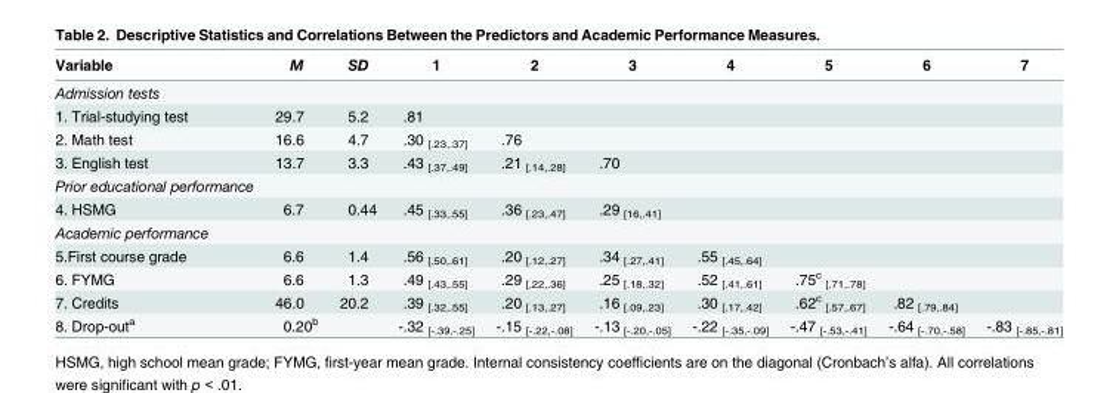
<table><thead><tr><td>Variable</td><td>M</td><td>SD</td><td>1</td><td>2</td><td>3</td><td>4</td><td>5</td><td>6</td><td>7</td></tr></thead><tbody><tr><td colspan="10">Admission tests</td></tr><tr><td>1. Trial-studying test</td><td>29.7</td><td>5.2</td><td>.81</td><td></td><td></td><td></td><td></td><td></td><td></td></tr><tr><td>2. Math test</td><td>16.6</td><td>4.7</td><td>.30 <sub>[.23,.37]</sub></td><td>.76</td><td></td><td></td><td></td><td></td><td></td></tr><tr><td>3. English test</td><td>13.7</td><td>3.3</td><td>.43 <sub>[.37,.49]</sub></td><td>.21 <sub>[.14,.28]</sub></td><td>.70</td><td></td><td></td><td></td><td></td></tr><tr><td colspan="10">Prior educational performance</td></tr><tr><td>4. HSMG</td><td>6.7</td><td>0.44</td><td>.45 <sub>[.33,.55]</sub></td><td>.36 <sub>[.23,.47]</sub></td><td>.29 <sub>[16,.41]</sub></td><td></td><td></td><td></td><td></td></tr><tr><td colspan="10">Academic performance</td></tr><tr><td>5.First course grade</td><td>6.6</td><td>1.4</td><td>.56 <sub>[.50,.61]</sub></td><td>.20 <sub>[.12,.27]</sub></td><td>.34 <sub>[.27,.41]</sub></td><td>.55 <sub>[.45,.64]</sub></td><td></td><td></td><td></td></tr><tr><td>6. FYMG</td><td>6.6</td><td>1.3</td><td>.49 <sub>[.43,.55]</sub></td><td>.29 <sub>[.22,.36]</sub></td><td>.25 <sub>[.18,.32]</sub></td><td>.52 <sub>[.41,.61]</sub></td><td>.75<sup>c</sup> <sub>[.71,.78]</sub></td><td></td><td></td></tr><tr><td>7. Credits</td><td>46.0</td><td>20.2</td><td>.39 <sub>[.32,.55]</sub></td><td>.20 <sub>[.13,.27]</sub></td><td>.16 <sub>[.09,.23]</sub></td><td>.30 <sub>[.17,.42]</sub></td><td>.62<sup>c</sup> <sub>[.57,.67]</sub></td><td>.82 <sub>[.79,.84]</sub></td><td></td></tr><tr><td>8. Drop-out<sup>a</sup></td><td>0.20<sup>b</sup></td><td></td><td>-.32 <sub>[-.39,-.25]</sub></td><td>-.15 <sub>[-.22,-.08]</sub></td><td>-.13 <sub>[-.20,-.05]</sub></td><td>-.22 <sub>[-.35,-.09]</sub></td><td>-.47 <sub>[-.53,-.41]</sub></td><td>-.64 <sub>[-.70,-.58]</sub></td><td>-.83 <sub>[-.85,-.81]</sub></td></tr></tbody></table>